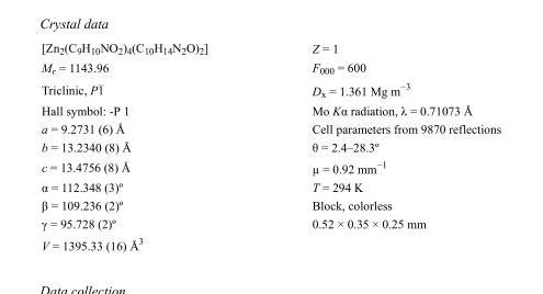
<table><tbody><tr><td>[Zn<sub>2</sub>(C<sub>9</sub>H<sub>10</sub>NO<sub>2</sub>)<sub>4</sub>(C<sub>10</sub>H<sub>14</sub>N<sub>2</sub>O)<sub>2</sub>]</td><td>Z = 1</td></tr><tr><td>M<sub>r</sub> = 1143.96</td><td>F000 = 600</td></tr><tr><td>Triclinic, P1</td><td>D<sub>x</sub> = 1.361 Mg m<sup>−3</sup></td></tr><tr><td>Hall symbol: -P 1</td><td>Mo Kα radiation, λ = 0.71073 Å</td></tr><tr><td>a = 9.2731 (6) Å</td><td>Cell parameters from 9870 reflections</td></tr><tr><td>b = 13.2340 (8) Å</td><td>θ = 2.4–28.3º</td></tr><tr><td>c = 13.4756 (8) Å</td><td>µ = 0.92 mm<sup>−1</sup></td></tr><tr><td>α = 112.348 (3)º</td><td>T = 294 K</td></tr><tr><td>β = 109.236 (2)º</td><td>Block, colorless</td></tr><tr><td>γ = 95.728 (2)º</td><td>0.52 × 0.35 × 0.25 mm</td></tr><tr><td>V = 1395.33 (16) Å<sup>3</sup></td><td></td></tr></tbody></table>